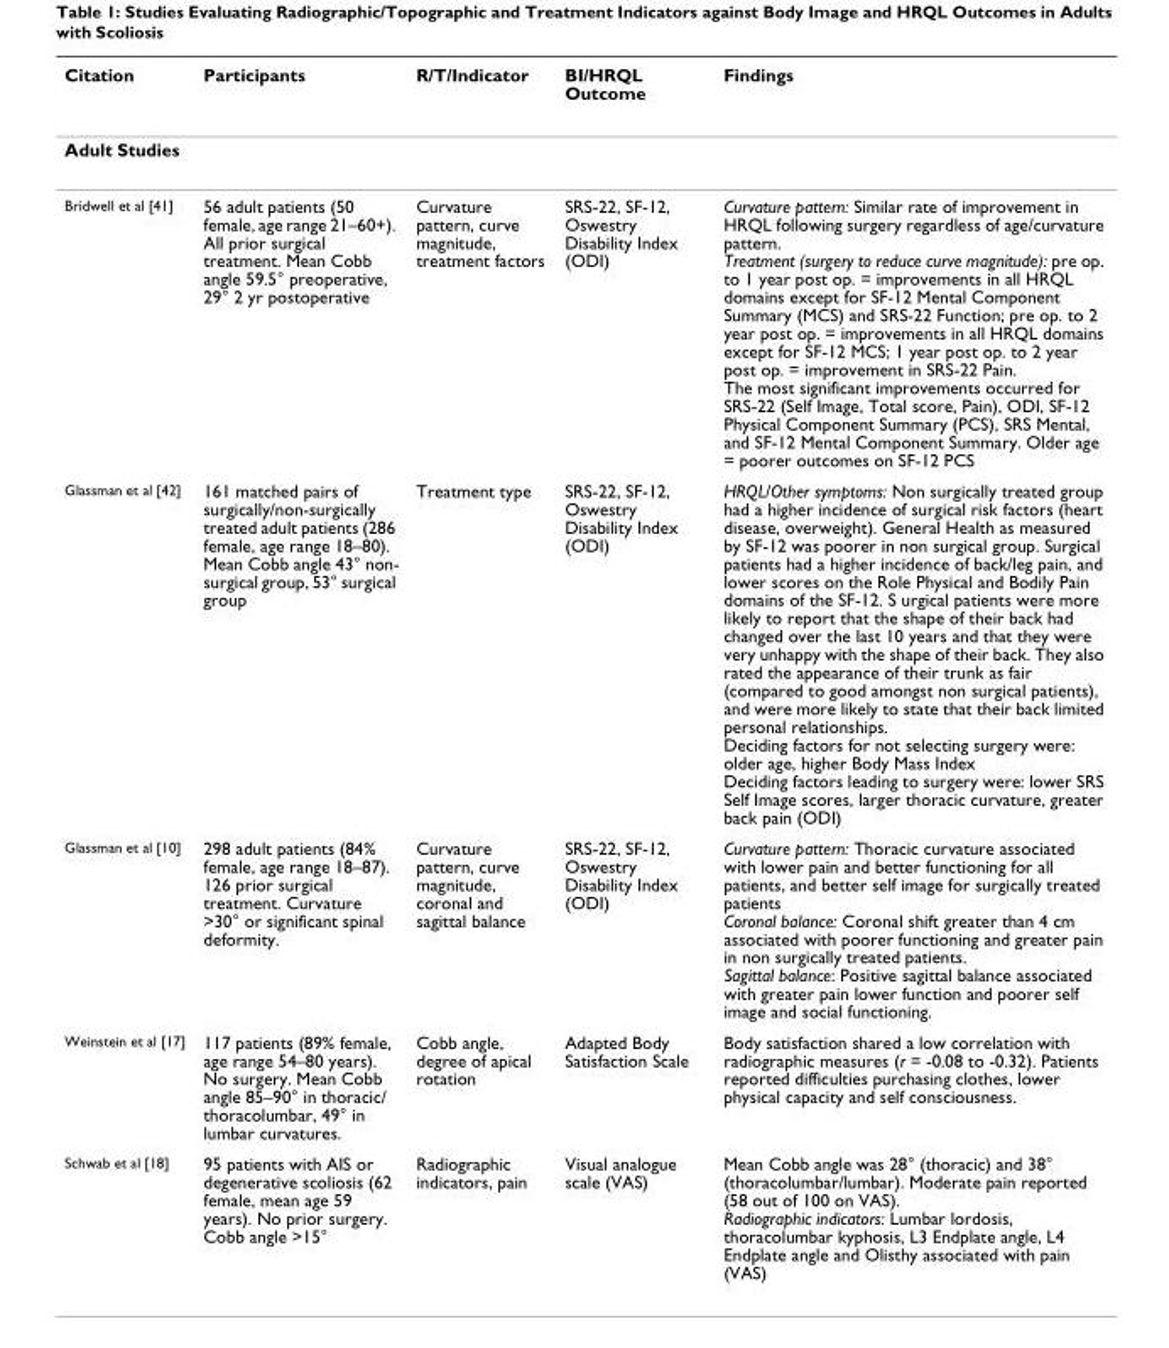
<table><thead><tr><td>Citation</td><td>Participants</td><td>R/T/Indicator</td><td>BI/HRQL Outcome</td><td>Findings</td></tr></thead><tbody><tr><td colspan="5">Adult Studies</td></tr><tr><td>Bridwell et al [41]</td><td>56 adult patients (50 female, age range 21–60+). All prior surgical treatment. Mean Cobb angle 59.5° preoperative, 29° 2 yr postoperative</td><td>Curvature pattern, curve magnitude, treatment factors</td><td>SRS-22, SF-12, Oswestry Disability Index (ODI)</td><td>Curvature pattern: Similar rate of improvement in HRQL following surgery regardless of age/curvature pattern. Treatment (surgery to reduce curve magnitude): pre op. to 1 year post op. = improvements in all HRQL domains except for SF-12 Mental Component Summary (MCS) and SRS-22 Function; pre op. to 2 year post op. = improvements in all HRQL domains except for SF-12 MCS; 1 year post op. to 2 year post op. = improvement in SRS-22 Pain. The most significant improvements occurred for SRS-22 (Self Image, Total score, Pain), ODI, SF-12 Physical Component Summary (PCS), SRS Mental, and SF-12 Mental Component Summary. Older age = poorer outcomes on SF-12 PCS</td></tr><tr><td>Glassman et al [42]</td><td>161 matched pairs of surgically/non-surgically treated adult patients (286 female, age range 18–80). Mean Cobb angle 43° non- surgical group, 53° surgical group</td><td>Treatment type</td><td>SRS-22, SF-12, Oswestry Disability Index (ODI)</td><td>HRQL/Other symptoms: Non surgically treated group had a higher incidence of surgical risk factors (heart disease, overweight). General Health as measured by SF-12 was poorer in non surgical group. Surgical patients had a higher incidence of back/leg pain, and lower scores on the Role Physical and Bodily Pain domains of the SF-12. S urgical patients were more likely to report that the shape of their back had changed over the last 10 years and that they were very unhappy with the shape of their back. They also rated the appearance of their trunk as fair (compared to good amongst non surgical patients), and were more likely to state that their back limited personal relationships. Deciding factors for not selecting surgery were: older age, higher Body Mass Index Deciding factors leading to surgery were: lower SRS Self Image scores, larger thoracic curvature, greater back pain (ODI)</td></tr><tr><td>Glassman et al [10]</td><td>298 adult patients (84% female, age range 18–87). 126 prior surgical treatment. Curvature &gt;30° or significant spinal deformity.</td><td>Curvature pattern, curve magnitude, coronal and sagittal balance</td><td>SRS-22, SF-12, Oswestry Disability Index (ODI)</td><td>Curvature pattern: Thoracic curvature associated with lower pain and better functioning for all patients, and better self image for surgically treated patients Coronal balance: Coronal shift greater than 4 cm associated with poorer functioning and greater pain in non surgically treated patients. Sagittal balance: Positive sagittal balance associated with greater pain lower function and poorer self image and social functioning.</td></tr><tr><td>Weinstein et al [17]</td><td>117 patients (89% female, age range 54–80 years). No surgery. Mean Cobb angle 85–90° in thoracic/ thoracolumbar, 49° in lumbar curvatures.</td><td>Cobb angle, degree of apical rotation</td><td>Adapted Body Satisfaction Scale</td><td>Body satisfaction shared a low correlation with radiographic measures (r = -0.08 to -0.32). Patients reported difficulties purchasing clothes, lower physical capacity and self consciousness.</td></tr><tr><td>Schwab et al [18]</td><td>95 patients with AIS or degenerative scoliosis (62 female, mean age 59 years). No prior surgery. Cobb angle &gt;15°</td><td>Radiographic indicators, pain</td><td>Visual analogue scale (VAS)</td><td>Mean Cobb angle was 28° (thoracic) and 38° (thoracolumbar/lumbar). Moderate pain reported (58 out of 100 on VAS). Radiographic indicators: Lumbar lordosis, thoracolumbar kyphosis, L3 Endplate angle, L4 Endplate angle and Olisthy associated with pain (VAS)</td></tr></tbody></table>